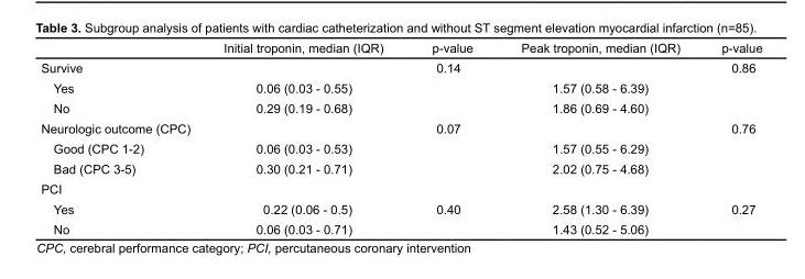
<table><thead><tr><td></td><td>Initial troponin, median (IQR)</td><td>p-value</td><td>Peak troponin, median (IQR)</td><td>p-value</td></tr></thead><tbody><tr><td>Survive</td><td></td><td>0.14</td><td></td><td>0.86</td></tr><tr><td>Yes</td><td>0.06 (0.03 - 0.55)</td><td></td><td>1.57 (0.58 - 6.39)</td><td></td></tr><tr><td>No</td><td>0.29 (0.19 - 0.68)</td><td></td><td>1.86 (0.69 - 4.60)</td><td></td></tr><tr><td>Neurologic outcome (CPC)</td><td></td><td>0.07</td><td></td><td>0.76</td></tr><tr><td>Good (CPC 1-2)</td><td>0.06 (0.03 - 0.53)</td><td></td><td>1.57 (0.55 - 6.29)</td><td></td></tr><tr><td>Bad (CPC 3-5)</td><td>0.30 (0.21 - 0.71)</td><td></td><td>2.02 (0.75 - 4.68)</td><td></td></tr><tr><td colspan="5">PCI</td></tr><tr><td>Yes</td><td>0.22 (0.06 - 0.5)</td><td>0.40</td><td>2.58 (1.30 - 6.39)</td><td>0.27</td></tr><tr><td>No</td><td>0.06 (0.03 - 0.71)</td><td></td><td>1.43 (0.52 - 5.06)</td><td></td></tr></tbody></table>